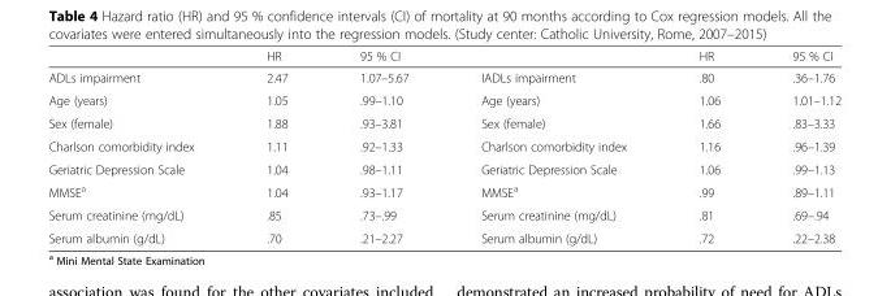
<table><thead><tr><td></td><td>HR</td><td>95 % CI</td><td></td><td>HR</td><td>95 % CI</td></tr></thead><tbody><tr><td>ADLs impairment</td><td>2.47</td><td>1.07–5.67</td><td>IADLs impairment</td><td>.80</td><td>.36–1.76</td></tr><tr><td>Age (years)</td><td>1.05</td><td>.99–1.10</td><td>Age (years)</td><td>1.06</td><td>1.01–1.12</td></tr><tr><td>Sex (female)</td><td>1.88</td><td>.93–3.81</td><td>Sex (female)</td><td>1.66</td><td>.83–3.33</td></tr><tr><td>Charlson comorbidity index</td><td>1.11</td><td>.92–1.33</td><td>Charlson comorbidity index</td><td>1.16</td><td>.96–1.39</td></tr><tr><td>Geriatric Depression Scale</td><td>1.04</td><td>.98–1.11</td><td>Geriatric Depression Scale</td><td>1.06</td><td>.99–1.13</td></tr><tr><td>MMSE<sup>a</sup></td><td>1.04</td><td>.93–1.17</td><td>MMSE<sup>a</sup></td><td>.99</td><td>.89–1.11</td></tr><tr><td>Serum creatinine (mg/dL)</td><td>.85</td><td>.73–.99</td><td>Serum creatinine (mg/dL)</td><td>.81</td><td>.69–.94</td></tr><tr><td>Serum albumin (g/dL)</td><td>.70</td><td>.21–2.27</td><td>Serum albumin (g/dL)</td><td>.72</td><td>.22–2.38</td></tr></tbody></table>